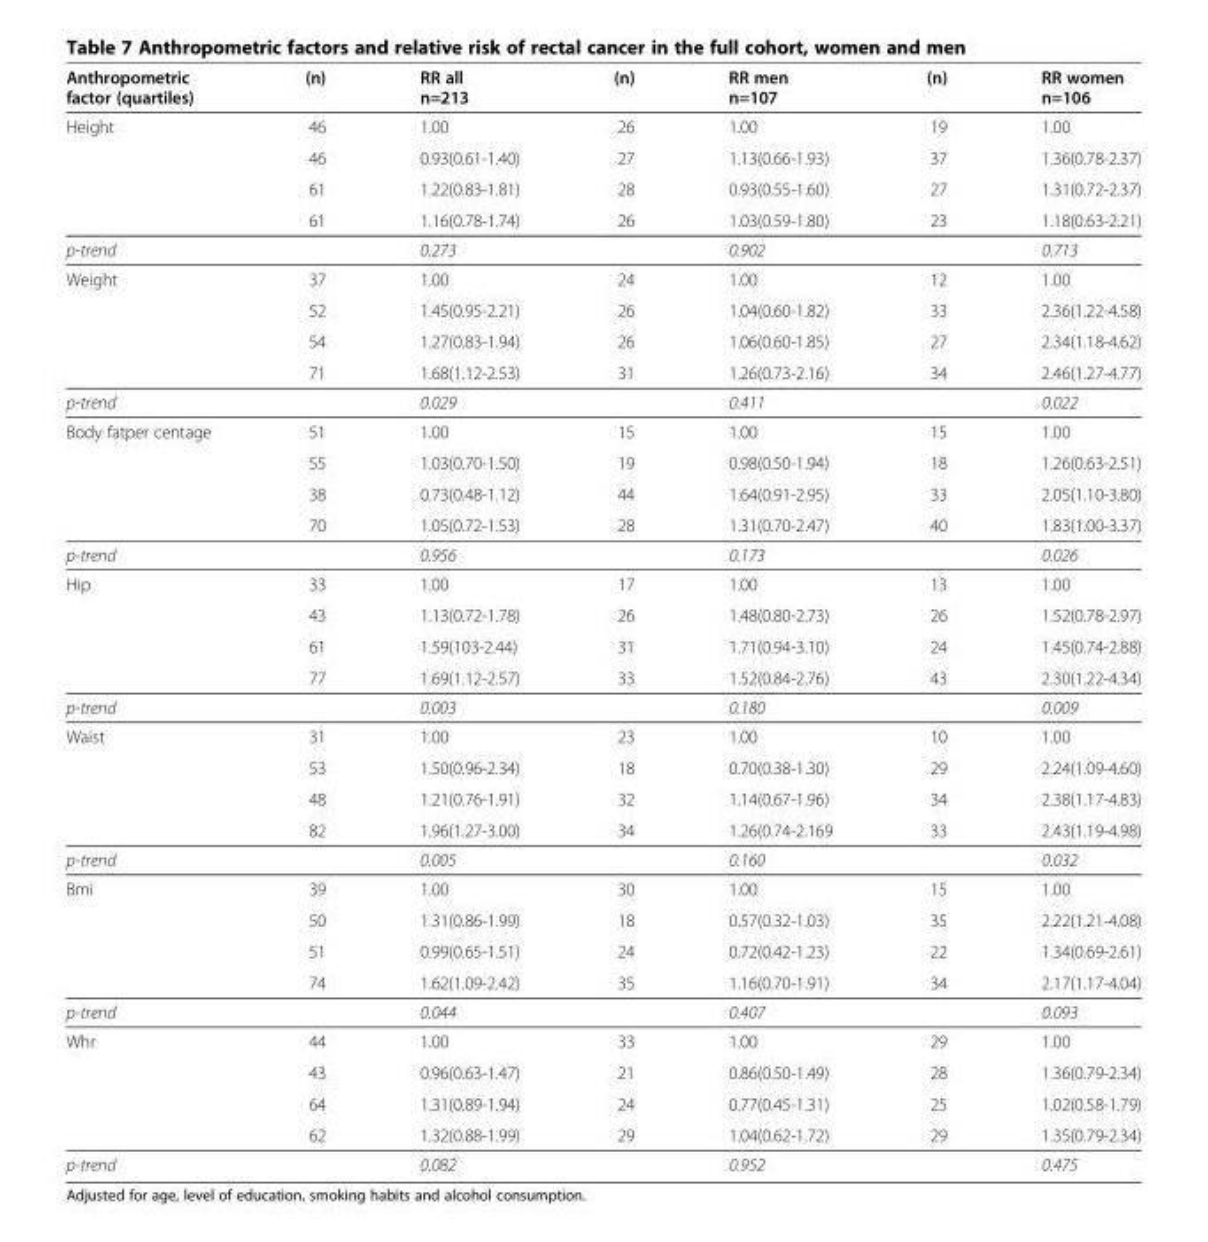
<table><thead><tr><td>Anthropometric factor (quartiles)</td><td>(n)</td><td>RR all n=213</td><td>(n)</td><td>RR men n=107</td><td>(n)</td><td>RR women n=106</td></tr></thead><tbody><tr><td rowspan="4">Height</td><td>46</td><td>1.00</td><td>26</td><td>1.00</td><td>19</td><td>1.00</td></tr><tr><td>46</td><td>0.93(0.61-1.40)</td><td>27</td><td>1.13(0.66-1.93)</td><td>37</td><td>1.36(0.78-2.37)</td></tr><tr><td>61</td><td>1.22(0.83-1.81)</td><td>28</td><td>0.93(0.55-1.60)</td><td>27</td><td>1.31(0.72-2.37)</td></tr><tr><td>61</td><td>1.16(0.78-1.74)</td><td>26</td><td>1.03(0.59-1.80)</td><td>23</td><td>1.18(0.63-2.21)</td></tr><tr><td>p-trend</td><td></td><td>0.273</td><td></td><td>0.902</td><td></td><td>0.713</td></tr><tr><td rowspan="4">Weight</td><td>37</td><td>1.00</td><td>24</td><td>1.00</td><td>12</td><td>1.00</td></tr><tr><td>52</td><td>1.45(0.95-2.21)</td><td>26</td><td>1.04(0.60-1.82)</td><td>33</td><td>2.36(1.22-4.58)</td></tr><tr><td>54</td><td>1.27(0.83-1.94)</td><td>26</td><td>1.06(0.60-1.85)</td><td>27</td><td>2.34(1.18-4.62)</td></tr><tr><td>71</td><td>1.68(1.12-2.53)</td><td>31</td><td>1.26(0.73-2.16)</td><td>34</td><td>2.46(1.27-4.77)</td></tr><tr><td>p-trend</td><td></td><td>0.029</td><td></td><td>0.411</td><td></td><td>0.022</td></tr><tr><td rowspan="4">Body fatper centage</td><td>51</td><td>1.00</td><td>15</td><td>1.00</td><td>15</td><td>1.00</td></tr><tr><td>55</td><td>1.03(0.70-1.50)</td><td>19</td><td>0.98(0.50-1.94)</td><td>18</td><td>1.26(0.63-2.51)</td></tr><tr><td>38</td><td>0.73(0.48-1.12)</td><td>44</td><td>1.64(0.91-2.95)</td><td>33</td><td>2.05(1.10-3.80)</td></tr><tr><td>70</td><td>1.05(0.72-1.53)</td><td>28</td><td>1.31(0.70-2.47)</td><td>40</td><td>1.83(1.00-3.37)</td></tr><tr><td>p-trend</td><td></td><td>0.956</td><td></td><td>0.173</td><td></td><td>0.026</td></tr><tr><td rowspan="4">Hip</td><td>33</td><td>1.00</td><td>17</td><td>1.00</td><td>13</td><td>1.00</td></tr><tr><td>43</td><td>1.13(0.72-1.78)</td><td>26</td><td>1.48(0.80-2.73)</td><td>26</td><td>1.52(0.78-2.97)</td></tr><tr><td>61</td><td>1.59(103-2.44)</td><td>31</td><td>1.71(0.94-3.10)</td><td>24</td><td>1.45(0.74-2.88)</td></tr><tr><td>77</td><td>1.69(1.12-2.57)</td><td>33</td><td>1.52(0.84-2.76)</td><td>43</td><td>2.30(1.22-4.34)</td></tr><tr><td>p-trend</td><td></td><td>0.003</td><td></td><td>0.180</td><td></td><td>0.009</td></tr><tr><td rowspan="4">Waist</td><td>31</td><td>1.00</td><td>23</td><td>1.00</td><td>10</td><td>1.00</td></tr><tr><td>53</td><td>1.50(0.96-2.34)</td><td>18</td><td>0.70(0.38-1.30)</td><td>29</td><td>2.24(1.09-4.60)</td></tr><tr><td>48</td><td>1.21(0.76-1.91)</td><td>32</td><td>1.14(0.67-1.96)</td><td>34</td><td>2.38(1.17-4.83)</td></tr><tr><td>82</td><td>1.96(1.27-3.00)</td><td>34</td><td>1.26(0.74-2.169</td><td>33</td><td>2.43(1.19-4.98)</td></tr><tr><td>p-trend</td><td></td><td>0.005</td><td></td><td>0.160</td><td></td><td>0.032</td></tr><tr><td rowspan="4">Bmi</td><td>39</td><td>1.00</td><td>30</td><td>1.00</td><td>15</td><td>1.00</td></tr><tr><td>50</td><td>1.31(0.86-1.99)</td><td>18</td><td>0.57(0.32-1.03)</td><td>35</td><td>2.22(1.21-4.08)</td></tr><tr><td>51</td><td>0.99(0.65-1.51)</td><td>24</td><td>0.72(0.42-1.23)</td><td>22</td><td>1.34(0.69-2.61)</td></tr><tr><td>74</td><td>1.62(1.09-2.42)</td><td>35</td><td>1.16(0.70-1.91)</td><td>34</td><td>2.17(1.17-4.04)</td></tr><tr><td>p-trend</td><td></td><td>0.044</td><td></td><td>0.407</td><td></td><td>0.093</td></tr><tr><td rowspan="4">Whr</td><td>44</td><td>1.00</td><td>33</td><td>1.00</td><td>29</td><td>1.00</td></tr><tr><td>43</td><td>0.96(0.63-1.47)</td><td>21</td><td>0.86(0.50-1.49)</td><td>28</td><td>1.36(0.79-2.34)</td></tr><tr><td>64</td><td>1.31(0.89-1.94)</td><td>24</td><td>0.77(0.45-1.31)</td><td>25</td><td>1.02(0.58-1.79)</td></tr><tr><td>62</td><td>1.32(0.88-1.99)</td><td>29</td><td>1.04(0.62-1.72)</td><td>29</td><td>1.35(0.79-2.34)</td></tr><tr><td>p-trend</td><td></td><td>0.082</td><td></td><td>0.952</td><td></td><td>0.475</td></tr></tbody></table>